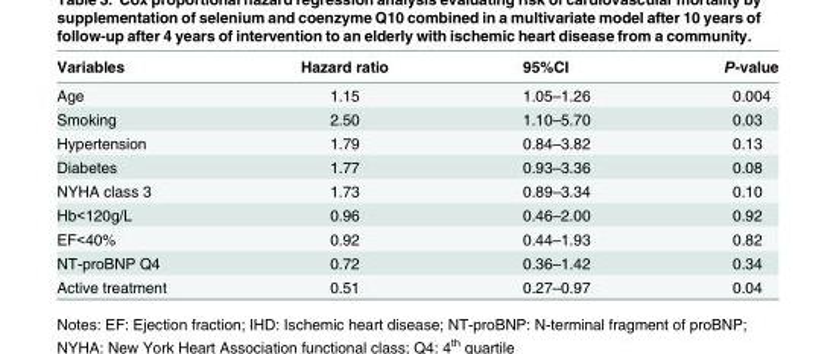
<table><thead><tr><td>Variables</td><td>Hazard ratio</td><td>95%CI</td><td>P-value</td></tr></thead><tbody><tr><td>Age</td><td>1.15</td><td>1.05–1.26</td><td>0.004</td></tr><tr><td>Smoking</td><td>2.50</td><td>1.10–5.70</td><td>0.03</td></tr><tr><td>Hypertension</td><td>1.79</td><td>0.84–3.82</td><td>0.13</td></tr><tr><td>Diabetes</td><td>1.77</td><td>0.93–3.36</td><td>0.08</td></tr><tr><td>NYHA class 3</td><td>1.73</td><td>0.89–3.34</td><td>0.10</td></tr><tr><td>Hb&lt;120g/L</td><td>0.96</td><td>0.46–2.00</td><td>0.92</td></tr><tr><td>EF&lt;40%</td><td>0.92</td><td>0.44–1.93</td><td>0.82</td></tr><tr><td>NT-proBNP Q4</td><td>0.72</td><td>0.36–1.42</td><td>0.34</td></tr><tr><td>Active treatment</td><td>0.51</td><td>0.27–0.97</td><td>0.04</td></tr></tbody></table>